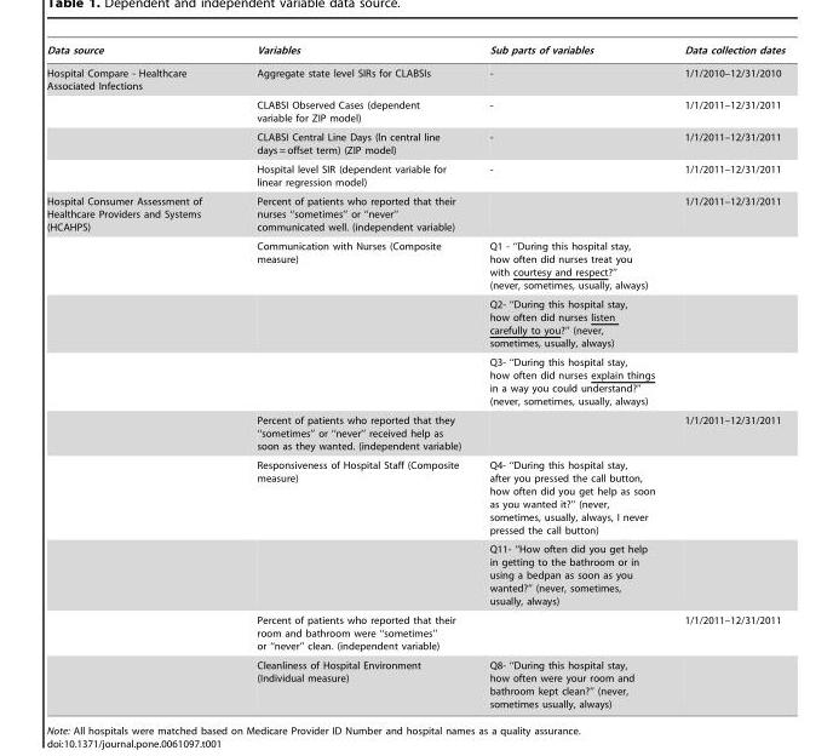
<table><thead><tr><td>Data source</td><td>Variables</td><td>Sub parts of variables</td><td>Data collection dates</td></tr></thead><tbody><tr><td rowspan="4">Hospital Compare - Healthcare Associated Infections</td><td>Aggregate state level SIRs for CLABSIs</td><td>-</td><td>1/1/2010–12/31/2010</td></tr><tr><td>CLABSI Observed Cases (dependent variable for ZIP model)</td><td>-</td><td>1/1/2011–12/31/2011</td></tr><tr><td>CLABSI Central Line Days (ln central line days = offset term) (ZIP model)</td><td>-</td><td>1/1/2011–12/31/2011</td></tr><tr><td>Hospital level SIR (dependent variable for linear regression model)</td><td>-</td><td>1/1/2011–12/31/2011</td></tr><tr><td rowspan="9">Hospital Consumer Assessment of Healthcare Providers and Systems (HCAHPS)</td><td>Percent of patients who reported that their nurses ‘‘sometimes’’ or ‘‘never’’ communicated well. (independent variable)</td><td></td><td>1/1/2011–12/31/2011</td></tr><tr><td>Communication with Nurses (Composite measure)</td><td>Q1 - ‘‘During this hospital stay, how often did nurses treat you with courtesy and respect?’’ (never, sometimes, usually, always)</td><td></td></tr><tr><td></td><td>Q2- ‘‘During this hospital stay, how often did nurses listen carefully to you?’’ (never, sometimes, usually, always)</td><td></td></tr><tr><td></td><td>Q3- ‘‘During this hospital stay, how often did nurses explain things in a way you could understand?’’ (never, sometimes, usually, always)</td><td></td></tr><tr><td>Percent of patients who reported that they ‘‘sometimes’’ or ‘‘never’’ received help as soon as they wanted. (independent variable)</td><td></td><td>1/1/2011–12/31/2011</td></tr><tr><td>Responsiveness of Hospital Staff (Composite measure)</td><td>Q4- ‘‘During this hospital stay, after you pressed the call button, how often did you get help as soon as you wanted it?’’ (never, sometimes, usually, always, I never pressed the call button)</td><td></td></tr><tr><td></td><td>Q11- ‘‘How often did you get help in getting to the bathroom or in using a bedpan as soon as you wanted?’’ (never, sometimes, usually, always)</td><td></td></tr><tr><td>Percent of patients who reported that their room and bathroom were ‘‘sometimes’’ or ‘‘never’’ clean. (independent variable)</td><td></td><td>1/1/2011–12/31/2011</td></tr><tr><td>Cleanliness of Hospital Environment (Individual measure)</td><td>Q8- ‘‘During this hospital stay, how often were your room and bathroom kept clean?’’ (never, sometimes usually, always)</td><td></td></tr></tbody></table>